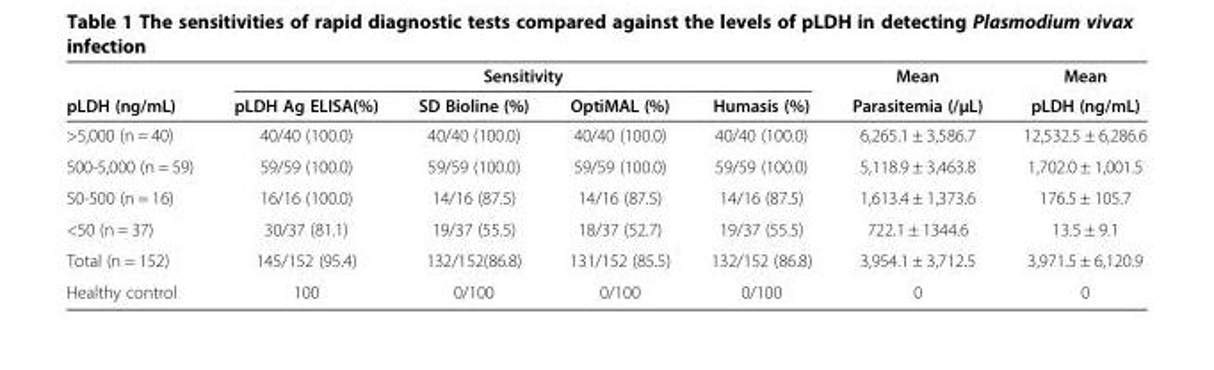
<table><thead><tr><td rowspan="2">pLDH (ng/mL)</td><td colspan="4">Sensitivity</td><td rowspan="2">Mean Parasitemia (/μL)</td><td rowspan="2">Mean pLDH (ng/mL)</td></tr><tr><td>pLDH Ag ELISA(%)</td><td>SD Bioline (%)</td><td>OptiMAL (%)</td><td>Humasis (%)</td></tr></thead><tbody><tr><td>&gt;5,000 (n = 40)</td><td>40/40 (100.0)</td><td>40/40 (100.0)</td><td>40/40 (100.0)</td><td>40/40 (100.0)</td><td>6,265.1 ± 3,586.7</td><td>12,532.5 ± 6,286.6</td></tr><tr><td>500-5,000 (n = 59)</td><td>59/59 (100.0)</td><td>59/59 (100.0)</td><td>59/59 (100.0)</td><td>59/59 (100.0)</td><td>5,118.9 ± 3,463.8</td><td>1,702.0 ± 1,001.5</td></tr><tr><td>50-500 (n = 16)</td><td>16/16 (100.0)</td><td>14/16 (87.5)</td><td>14/16 (87.5)</td><td>14/16 (87.5)</td><td>1,613.4 ± 1,373.6</td><td>176.5 ± 105.7</td></tr><tr><td>&lt;50 (n = 37)</td><td>30/37 (81.1)</td><td>19/37 (55.5)</td><td>18/37 (52.7)</td><td>19/37 (55.5)</td><td>722.1 ± 1344.6</td><td>13.5 ± 9.1</td></tr><tr><td>Total (n = 152)</td><td>145/152 (95.4)</td><td>132/152(86.8)</td><td>131/152 (85.5)</td><td>132/152 (86.8)</td><td>3,954.1 ± 3,712.5</td><td>3,971.5 ± 6,120.9</td></tr><tr><td>Healthy control</td><td>100</td><td>0/100</td><td>0/100</td><td>0/100</td><td>0</td><td>0</td></tr></tbody></table>